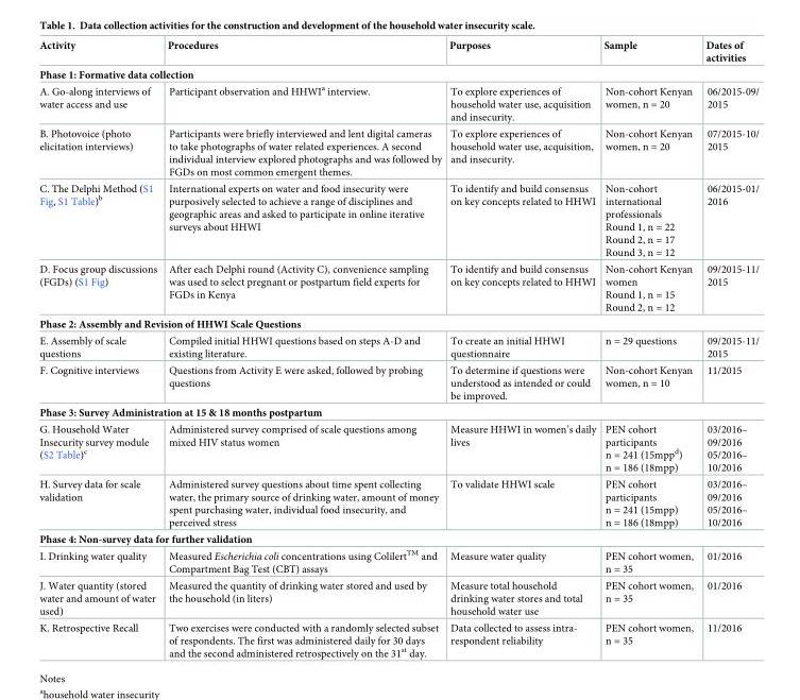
<table><thead><tr><td>Activity</td><td>Procedures</td><td>Purposes</td><td>Sample</td><td>Dates of activities</td></tr></thead><tbody><tr><td colspan="5">Phase 1: Formative data collection</td></tr><tr><td>A. Go-along interviews of water access and use</td><td>Participant observation and HHWI<sup>a</sup> interview.</td><td>To explore experiences of household water use, acquisition and insecurity.</td><td>Non-cohort Kenyan women, n = 20</td><td>06/2015-09/ 2015</td></tr><tr><td>B. Photovoice (photo elicitation interviews)</td><td>Participants were briefly interviewed and lent digital cameras to take photographs of water related experiences. A second individual interview explored photographs and was followed by FGDs on most common emergent themes.</td><td>To explore experiences of household water use, acquisition, and insecurity.</td><td>Non-cohort Kenyan women, n = 20</td><td>07/2015-10/ 2015</td></tr><tr><td>C. The Delphi Method (S1 Fig, S1 Table)<sup>b</sup></td><td>International experts on water and food insecurity were purposively selected to achieve a range of disciplines and geographic areas and asked to participate in online iterative surveys about HHWI</td><td>To identify and build consensus on key concepts related to HHWI</td><td>Non-cohort international professionals Round 1, n = 22 Round 2, n = 17 Round 3, n = 12</td><td>06/2015-01/ 2016</td></tr><tr><td>D. Focus group discussions (FGDs) (S1 Fig)</td><td>After each Delphi round (Activity C), convenience sampling was used to select pregnant or postpartum field experts for FGDs in Kenya</td><td>To identify and build consensus on key concepts related to HHWI</td><td>Non-cohort Kenyan women Round 1, n = 15 Round 2, n = 12</td><td>09/2015-11/ 2015</td></tr><tr><td colspan="5">Phase 2: Assembly and Revision of HHWI Scale Questions</td></tr><tr><td>E. Assembly of scale questions</td><td>Compiled initial HHWI questions based on steps A-D and existing literature.</td><td>To create an initial HHWI questionnaire</td><td>n = 29 questions</td><td>09/2015-11/ 2015</td></tr><tr><td>F. Cognitive interviews</td><td>Questions from Activity E were asked, followed by probing questions</td><td>To determine if questions were understood as intended or could be improved.</td><td>Non-cohort Kenyan women, n = 10</td><td>11/2015</td></tr><tr><td colspan="5">Phase 3: Survey Administration at 15 &amp; 18 months postpartum</td></tr><tr><td>G. Household Water Insecurity survey module (S2 Table)<sup>c</sup></td><td>Administered survey comprised of scale questions among mixed HIV status women</td><td>Measure HHWI in women’s daily lives</td><td>PEN cohort participants n = 241 (15mpp<sup>d</sup>) n = 186 (18mpp)</td><td>03/2016– 09/2016 05/2016– 10/2016</td></tr><tr><td>H. Survey data for scale validation</td><td>Administered survey questions about time spent collecting water, the primary source of drinking water, amount of money spent purchasing water, individual food insecurity, and perceived stress</td><td>To validate HHWI scale</td><td>PEN cohort participants n = 241 (15mpp) n = 186 (18mpp)</td><td>03/2016– 09/2016 05/2016– 10/2016</td></tr><tr><td colspan="5">Phase 4: Non-survey data for further validation</td></tr><tr><td>I. Drinking water quality</td><td>Measured Escherichia coli concentrations using Colilert<sup>TM</sup> and Compartment Bag Test (CBT) assays</td><td>Measure water quality</td><td>PEN cohort women, n = 35</td><td>01/2016</td></tr><tr><td>J. Water quantity (stored water and amount of water used)</td><td>Measured the quantity of drinking water stored and used by the household (in liters)</td><td>Measure total household drinking water stores and total household water use</td><td>PEN cohort women, n = 35</td><td>01/2016</td></tr><tr><td>K. Retrospective Recall</td><td>Two exercises were conducted with a randomly selected subset of respondents. The first was administered daily for 30 days and the second administered retrospectively on the 31<sup>st</sup> day.</td><td>Data collected to assess intra- respondent reliability</td><td>PEN cohort women, n = 35</td><td>11/2016</td></tr></tbody></table>